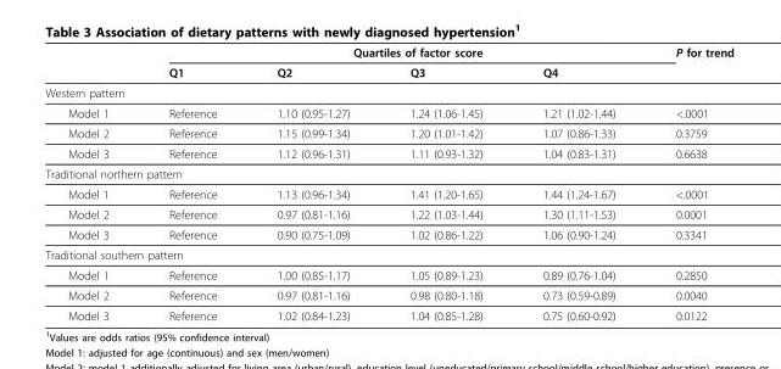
<table><thead><tr><td rowspan="2"></td><td colspan="4">Quartiles of factor score</td><td rowspan="2">P for trend</td></tr><tr><td>Q1</td><td>Q2</td><td>Q3</td><td>Q4</td></tr></thead><tbody><tr><td colspan="6">Western pattern</td></tr><tr><td>Model 1</td><td>Reference</td><td>1.10 (0.95-1.27)</td><td>1.24 (1.06-1.45)</td><td>1.21 (1.02-1.44)</td><td>&lt;.0001</td></tr><tr><td>Model 2</td><td>Reference</td><td>1.15 (0.99-1.34)</td><td>1.20 (1.01-1.42)</td><td>1.07 (0.86-1.33)</td><td>0.3759</td></tr><tr><td>Model 3</td><td>Reference</td><td>1.12 (0.96-1.31)</td><td>1.11 (0.93-1.32)</td><td>1.04 (0.83-1.31)</td><td>0.6638</td></tr><tr><td colspan="6">Traditional northern pattern</td></tr><tr><td>Model 1</td><td>Reference</td><td>1.13 (0.96-1.34)</td><td>1.41 (1.20-1.65)</td><td>1.44 (1.24-1.67)</td><td>&lt;.0001</td></tr><tr><td>Model 2</td><td>Reference</td><td>0.97 (0.81-1.16)</td><td>1.22 (1.03-1.44)</td><td>1.30 (1.11-1.53)</td><td>0.0001</td></tr><tr><td>Model 3</td><td>Reference</td><td>0.90 (0.75-1.09)</td><td>1.02 (0.86-1.22)</td><td>1.06 (0.90-1.24)</td><td>0.3341</td></tr><tr><td colspan="6">Traditional southern pattern</td></tr><tr><td>Model 1</td><td>Reference</td><td>1.00 (0.85-1.17)</td><td>1.05 (0.89-1.23)</td><td>0.89 (0.76-1.04)</td><td>0.2850</td></tr><tr><td>Model 2</td><td>Reference</td><td>0.97 (0.81-1.16)</td><td>0.98 (0.80-1.18)</td><td>0.73 (0.59-0.89)</td><td>0.0040</td></tr><tr><td>Model 3</td><td>Reference</td><td>1.02 (0.84-1.23)</td><td>1.04 (0.85-1.28)</td><td>0.75 (0.60-0.92)</td><td>0.0122</td></tr></tbody></table>